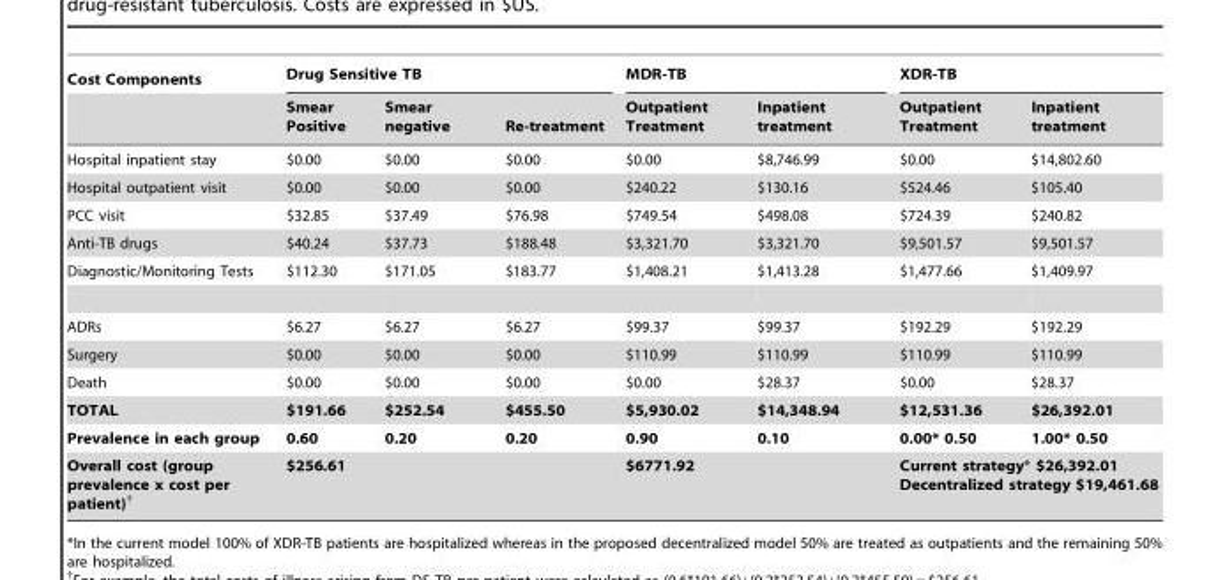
<table><thead><tr><td rowspan="2">Cost Components</td><td colspan="3">Drug Sensitive TB</td><td colspan="2">MDR-TB</td><td colspan="2">XDR-TB</td></tr><tr><td>Smear Positive</td><td>Smear negative</td><td>Re-treatment</td><td>Outpatient Treatment</td><td>Inpatient treatment</td><td>Outpatient Treatment</td><td>Inpatient treatment</td></tr></thead><tbody><tr><td>Hospital inpatient stay</td><td>$0.00</td><td>$0.00</td><td>$0.00</td><td>$0.00</td><td>$8,746.99</td><td>$0.00</td><td>$14,802.60</td></tr><tr><td>Hospital outpatient visit</td><td>$0.00</td><td>$0.00</td><td>$0.00</td><td>$240.22</td><td>$130.16</td><td>$524.46</td><td>$105.40</td></tr><tr><td>PCC visit</td><td>$32.85</td><td>$37.49</td><td>$76.98</td><td>$749.54</td><td>$498.08</td><td>$724.39</td><td>$240.82</td></tr><tr><td>Anti-TB drugs</td><td>$40.24</td><td>$37.73</td><td>$188.48</td><td>$3,321.70</td><td>$3,321.70</td><td>$9,501.57</td><td>$9,501.57</td></tr><tr><td>Diagnostic/Monitoring Tests</td><td>$112.30</td><td>$171.05</td><td>$183.77</td><td>$1,408.21</td><td>$1,413.28</td><td>$1,477.66</td><td>$1,409.97</td></tr><tr><td>ADRs</td><td>$6.27</td><td>$6.27</td><td>$6.27</td><td>$99.37</td><td>$99.37</td><td>$192.29</td><td>$192.29</td></tr><tr><td>Surgery</td><td>$0.00</td><td>$0.00</td><td>$0.00</td><td>$110.99</td><td>$110.99</td><td>$110.99</td><td>$110.99</td></tr><tr><td>Death</td><td>$0.00</td><td>$0.00</td><td>$0.00</td><td>$0.00</td><td>$28.37</td><td>$0.00</td><td>$28.37</td></tr><tr><td>TOTAL</td><td>$191.66</td><td>$252.54</td><td>$455.50</td><td>$5,930.02</td><td>$14,348.94</td><td>$12,531.36</td><td>$26,392.01</td></tr><tr><td>Prevalence in each group</td><td>0.60</td><td>0.20</td><td>0.20</td><td>0.90</td><td>0.10</td><td>0.00* 0.50</td><td>1.00* 0.50</td></tr><tr><td>Overall cost (group prevalence x cost per patient)†</td><td colspan="3">$256.61</td><td colspan="2">$6771.92</td><td colspan="2">Current strategy* $26,392.01 Decentralized strategy $19,461.68</td></tr></tbody></table>